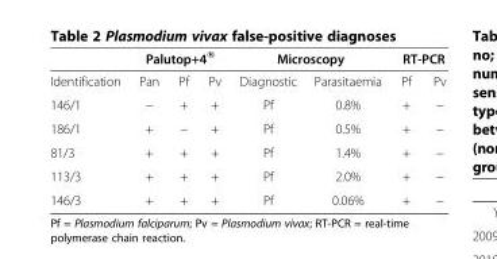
<table><thead><tr><td rowspan="2">Identification</td><td colspan="3">Palutop+4®</td><td colspan="2">Microscopy</td><td colspan="2">RT-PCR</td></tr><tr><td>Pan</td><td>Pf</td><td>Pv</td><td>Diagnostic</td><td>Parasitaemia</td><td>Pf</td><td>Pv</td></tr></thead><tbody><tr><td>146/1</td><td>−</td><td>+</td><td>+</td><td>Pf</td><td>0.8%</td><td>+</td><td>−</td></tr><tr><td>186/1</td><td>+</td><td>−</td><td>+</td><td>Pf</td><td>0.5%</td><td>+</td><td>−</td></tr><tr><td>81/3</td><td>+</td><td>+</td><td>+</td><td>Pf</td><td>1.4%</td><td>+</td><td>−</td></tr><tr><td>113/3</td><td>+</td><td>+</td><td>+</td><td>Pf</td><td>2.0%</td><td>+</td><td>−</td></tr><tr><td>146/3</td><td>+</td><td>+</td><td>+</td><td>Pf</td><td>0.06%</td><td>+</td><td>−</td></tr></tbody></table>